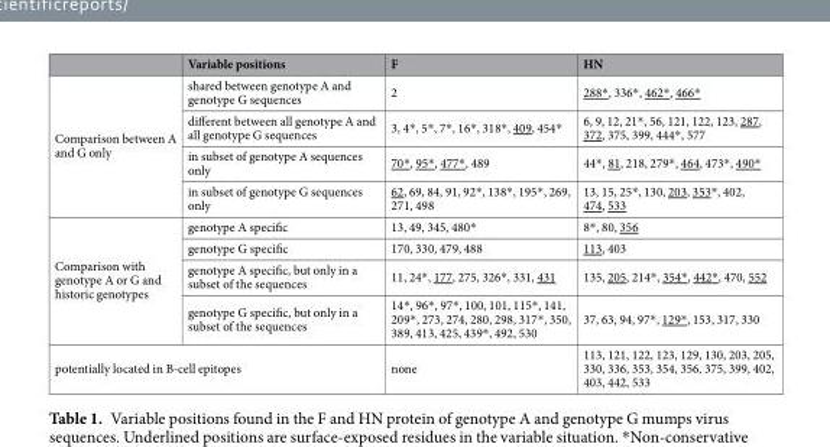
<table><thead><tr><td></td><td>Variable positions</td><td>F</td><td>HN</td></tr></thead><tbody><tr><td rowspan="4">Comparison between A and G only</td><td>shared between genotype A and genotype G sequences</td><td>2</td><td>288*, 336*, 462*, 466*</td></tr><tr><td>different between all genotype A and all genotype G sequences</td><td>3, 4*, 5*, 7*, 16*, 318*, 409, 454*</td><td>6, 9, 12, 21*, 56, 121, 122, 123, 287, 372, 375, 399, 444*, 577</td></tr><tr><td>in subset of genotype A sequences only</td><td>70*, 95*, 477*, 489</td><td>44*, 81, 218, 279*, 464, 473*, 490*</td></tr><tr><td>in subset of genotype G sequences only</td><td>62, 69, 84, 91, 92*, 138*, 195*, 269, 271, 498</td><td>13, 15, 25*, 130, 203, 353*, 402, 474, 533</td></tr><tr><td rowspan="4">Comparison with genotype A or G and historic genotypes</td><td>genotype A specific</td><td>13, 49, 345, 480*</td><td>8*, 80, 356</td></tr><tr><td>genotype G specific</td><td>170, 330, 479, 488</td><td>113, 403</td></tr><tr><td>genotype A specific, but only in a subset of the sequences</td><td>11, 24*, 177, 275, 326*, 331, 431</td><td>135, 205, 214*, 354*, 442*, 470, 552</td></tr><tr><td>genotype G specific, but only in a subset of the sequences</td><td>14*, 96*, 97*, 100, 101, 115*, 141, 209*, 273, 274, 280, 298, 317*, 350, 389, 413, 425, 439*, 492, 530</td><td>37, 63, 94, 97*, 129*, 153, 317, 330</td></tr><tr><td colspan="2">potentially located in B-cell epitopes</td><td>none</td><td>113, 121, 122, 123, 129, 130, 203, 205, 330, 336, 353, 354, 356, 375, 399, 402, 403, 442, 533</td></tr></tbody></table>